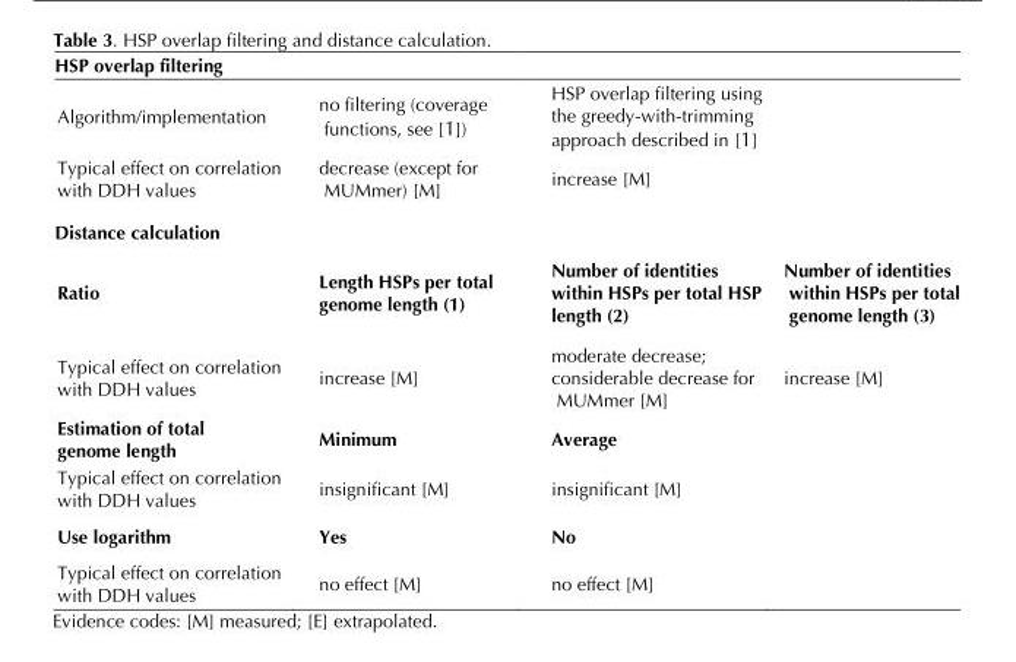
<table><tbody><tr><td colspan="4">HSP overlap filtering</td></tr><tr><td>Algorithm/implementation</td><td>no filtering (coverage functions, see [1])</td><td>HSP overlap filtering using the greedy-with-trimming approach described in [1]</td><td></td></tr><tr><td>Typical effect on correlation with DDH values</td><td>decrease (except for MUMmer) [M]</td><td>increase [M]</td><td></td></tr><tr><td colspan="4">Distance calculation</td></tr><tr><td>Ratio</td><td>Length HSPs per total genome length (1)</td><td>Number of identities within HSPs per total HSP length (2)</td><td>Number of identities within HSPs per total genome length (3)</td></tr><tr><td>Typical effect on correlation with DDH values</td><td>increase [M]</td><td>moderate decrease; considerable decrease for MUMmer [M]</td><td>increase [M]</td></tr><tr><td>Estimation of total genome length</td><td>Minimum</td><td>Average</td><td></td></tr><tr><td>Typical effect on correlation with DDH values</td><td>insignificant [M]</td><td>insignificant [M]</td><td></td></tr><tr><td>Use logarithm</td><td>Yes</td><td>No</td><td></td></tr><tr><td>Typical effect on correlation with DDH values</td><td>no effect [M]</td><td>no effect [M]</td><td></td></tr></tbody></table>